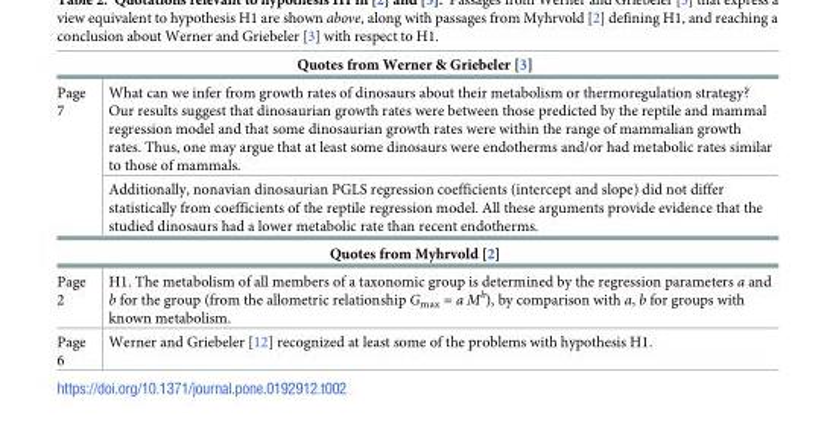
<table><tbody><tr><td colspan="2">Quotes from Werner &amp; Griebeler [3]</td></tr><tr><td rowspan="2">Page 7</td><td>What can we infer from growth rates of dinosaurs about their metabolism or thermoregulation strategy? Our results suggest that dinosaurian growth rates were between those predicted by the reptile and mammal regression model and that some dinosaurian growth rates were within the range of mammalian growth rates. Thus, one may argue that at least some dinosaurs were endotherms and/or had metabolic rates similar to those of mammals.</td></tr><tr><td>Additionally, nonavian dinosaurian PGLS regression coefficients (intercept and slope) did not differ statistically from coefficients of the reptile regression model. All these arguments provide evidence that the studied dinosaurs had a lower metabolic rate than recent endotherms.</td></tr><tr><td colspan="2">Quotes from Myhrvold [2]</td></tr><tr><td>Page 2</td><td>H1. The metabolism of all members of a taxonomic group is determined by the regression parameters a and b for the group (from the allometric relationship G<sub>max</sub> = a M<sup>b</sup>), by comparison with a, b for groups with known metabolism.</td></tr><tr><td>Page 6</td><td>Werner and Griebeler [12] recognized at least some of the problems with hypothesis H1.</td></tr></tbody></table>